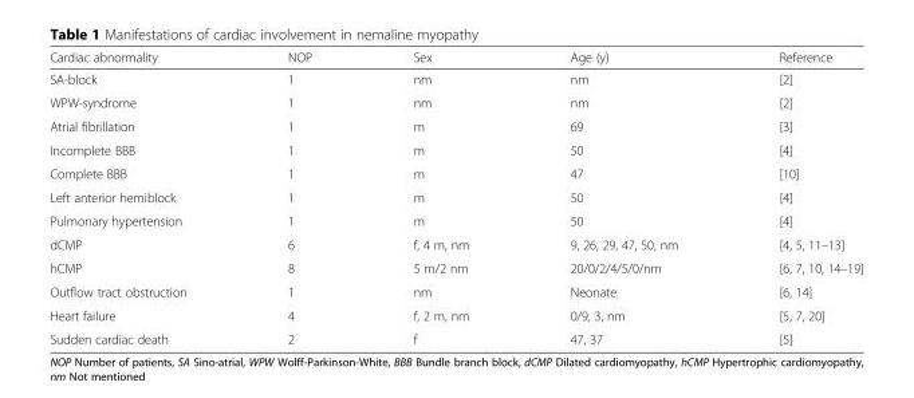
<table><thead><tr><td>Cardiac abnormality</td><td>NOP</td><td>Sex</td><td>Age (y)</td><td>Reference</td></tr></thead><tbody><tr><td>SA-block</td><td>1</td><td>nm</td><td>nm</td><td>[2]</td></tr><tr><td>WPW-syndrome</td><td>1</td><td>nm</td><td>nm</td><td>[2]</td></tr><tr><td>Atrial fibrillation</td><td>1</td><td>m</td><td>69</td><td>[3]</td></tr><tr><td>Incomplete BBB</td><td>1</td><td>m</td><td>50</td><td>[4]</td></tr><tr><td>Complete BBB</td><td>1</td><td>m</td><td>47</td><td>[10]</td></tr><tr><td>Left anterior hemiblock</td><td>1</td><td>m</td><td>50</td><td>[4]</td></tr><tr><td>Pulmonary hypertension</td><td>1</td><td>m</td><td>50</td><td>[4]</td></tr><tr><td>dCMP</td><td>6</td><td>f, 4 m, nm</td><td>9, 26, 29, 47, 50, nm</td><td>[4, 5, 11–13]</td></tr><tr><td>hCMP</td><td>8</td><td>5 m/2 nm</td><td>20/0/2/4/5/0/nm</td><td>[6, 7, 10, 14–19]</td></tr><tr><td>Outflow tract obstruction</td><td>1</td><td>nm</td><td>Neonate</td><td>[6, 14]</td></tr><tr><td>Heart failure</td><td>4</td><td>f, 2 m, nm</td><td>0/9, 3, nm</td><td>[5, 7, 20]</td></tr><tr><td>Sudden cardiac death</td><td>2</td><td>f</td><td>47, 37</td><td>[5]</td></tr></tbody></table>